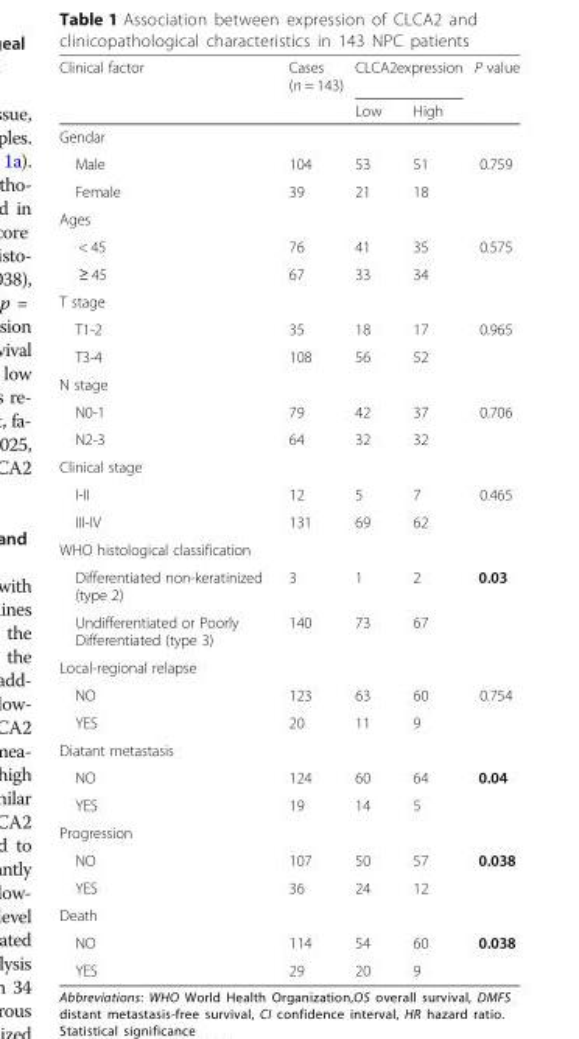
<table><thead><tr><td rowspan="2">Clinical factor</td><td rowspan="2">Cases (n = 143)</td><td colspan="2">CLCA2expression</td><td rowspan="2">P value</td></tr><tr><td>Low</td><td>High</td></tr></thead><tbody><tr><td colspan="5">Gendar</td></tr><tr><td>Male</td><td>104</td><td>53</td><td>51</td><td>0.759</td></tr><tr><td>Female</td><td>39</td><td>21</td><td>18</td><td></td></tr><tr><td colspan="5">Ages</td></tr><tr><td>&lt; 45</td><td>76</td><td>41</td><td>35</td><td>0.575</td></tr><tr><td>≥ 45</td><td>67</td><td>33</td><td>34</td><td></td></tr><tr><td colspan="5">T stage</td></tr><tr><td>T1-2</td><td>35</td><td>18</td><td>17</td><td>0.965</td></tr><tr><td>T3-4</td><td>108</td><td>56</td><td>52</td><td></td></tr><tr><td colspan="5">N stage</td></tr><tr><td>N0-1</td><td>79</td><td>42</td><td>37</td><td>0.706</td></tr><tr><td>N2-3</td><td>64</td><td>32</td><td>32</td><td></td></tr><tr><td colspan="5">Clinical stage</td></tr><tr><td>I-II</td><td>12</td><td>5</td><td>7</td><td>0.465</td></tr><tr><td>III-IV</td><td>131</td><td>69</td><td>62</td><td></td></tr><tr><td colspan="5">WHO histological classification</td></tr><tr><td>Differentiated non-keratinized (type 2)</td><td>3</td><td>1</td><td>2</td><td>0.03</td></tr><tr><td>Undifferentiated or Poorly Differentiated (type 3)</td><td>140</td><td>73</td><td>67</td><td></td></tr><tr><td colspan="5">Local-regional relapse</td></tr><tr><td>NO</td><td>123</td><td>63</td><td>60</td><td>0.754</td></tr><tr><td>YES</td><td>20</td><td>11</td><td>9</td><td></td></tr><tr><td colspan="5">Diatant metastasis</td></tr><tr><td>NO</td><td>124</td><td>60</td><td>64</td><td>0.04</td></tr><tr><td>YES</td><td>19</td><td>14</td><td>5</td><td></td></tr><tr><td colspan="5">Progression</td></tr><tr><td>NO</td><td>107</td><td>50</td><td>57</td><td>0.038</td></tr><tr><td>YES</td><td>36</td><td>24</td><td>12</td><td></td></tr><tr><td colspan="5">Death</td></tr><tr><td>NO</td><td>114</td><td>54</td><td>60</td><td>0.038</td></tr><tr><td>YES</td><td>29</td><td>20</td><td>9</td><td></td></tr></tbody></table>